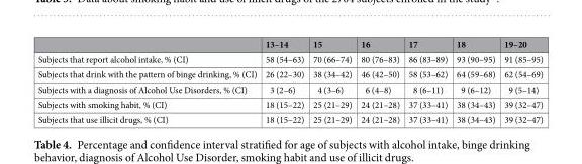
<table><thead><tr><td></td><td>13–14</td><td>15</td><td>16</td><td>17</td><td>18</td><td>19–20</td></tr></thead><tbody><tr><td>Subjects that report alcohol intake, % (CI)</td><td>58 (54–63)</td><td>70 (66–74)</td><td>80 (76–83)</td><td>86 (83–89)</td><td>93 (90–95)</td><td>91 (85–95)</td></tr><tr><td>Subjects that drink with the pattern of binge drinking, % (CI)</td><td>26 (22–30)</td><td>38 (34–42)</td><td>46 (42–50)</td><td>58 (53–62)</td><td>64 (59–68)</td><td>62 (54–69)</td></tr><tr><td>Subjects with a diagnosis of Alcohol Use Disorders, % (CI)</td><td>3 (2–6)</td><td>4 (3–6)</td><td>6 (4–8)</td><td>8 (6–11)</td><td>9 (6–12)</td><td>9 (5–14)</td></tr><tr><td>Subjects with smoking habit, % (CI)</td><td>18 (15–22)</td><td>25 (21–29)</td><td>24 (21–28)</td><td>37 (33–41)</td><td>38 (34–43)</td><td>39 (32–47)</td></tr><tr><td>Subjects that use illicit drugs, % (CI)</td><td>18 (15–22)</td><td>25 (21–29)</td><td>24 (21–28)</td><td>37 (33–41)</td><td>38 (34–43)</td><td>39 (32–47)</td></tr></tbody></table>